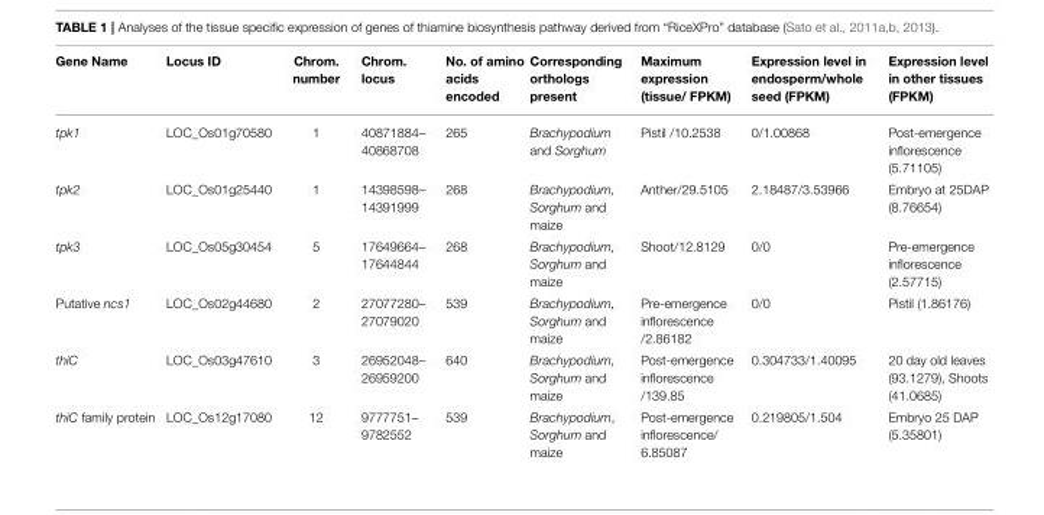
<table><thead><tr><td>Gene Name</td><td>Locus ID</td><td>Chrom. number</td><td>Chrom. locus</td><td>No. of amino acids encoded</td><td>Corresponding orthologs present</td><td>Maximum expression (tissue/ FPKM)</td><td>Expression level in endosperm/whole seed (FPKM)</td><td>Expression level in other tissues (FPKM)</td></tr></thead><tbody><tr><td>tpk1</td><td>LOC_Os01g70580</td><td>1</td><td>40871884– 40868708</td><td>265</td><td>Brachypodium and Sorghum</td><td>Pistil /10.2538</td><td>0/1.00868</td><td>Post-emergence inflorescence (5.71105)</td></tr><tr><td>tpk2</td><td>LOC_Os01g25440</td><td>1</td><td>14398598– 14391999</td><td>268</td><td>Brachypodium, Sorghum and maize</td><td>Anther/29.5105</td><td>2.18487/3.53966</td><td>Embryo at 25DAP (8.76654)</td></tr><tr><td>tpk3</td><td>LOC_Os05g30454</td><td>5</td><td>17649664– 17644844</td><td>268</td><td>Brachypodium, Sorghum and maize</td><td>Shoot/12.8129</td><td>0/0</td><td>Pre-emergence inflorescence (2.57715)</td></tr><tr><td>Putative ncs1</td><td>LOC_Os02g44680</td><td>2</td><td>27077280– 27079020</td><td>539</td><td>Brachypodium, Sorghum and maize</td><td>Pre-emergence inflorescence /2.86182</td><td>0/0</td><td>Pistil (1.86176)</td></tr><tr><td>thiC</td><td>LOC_Os03g47610</td><td>3</td><td>26952048– 26959200</td><td>640</td><td>Brachypodium, Sorghum and maize</td><td>Post-emergence inflorescence /139.85</td><td>0.304733/1.40095</td><td>20 day old leaves (93.1279), Shoots (41.0685)</td></tr><tr><td>thiC family protein</td><td>LOC_Os12g17080</td><td>12</td><td>9777751– 9782552</td><td>539</td><td>Brachypodium, Sorghum and maize</td><td>Post-emergence inflorescence/ 6.85087</td><td>0.219805/1.504</td><td>Embryo 25 DAP (5.35801)</td></tr></tbody></table>